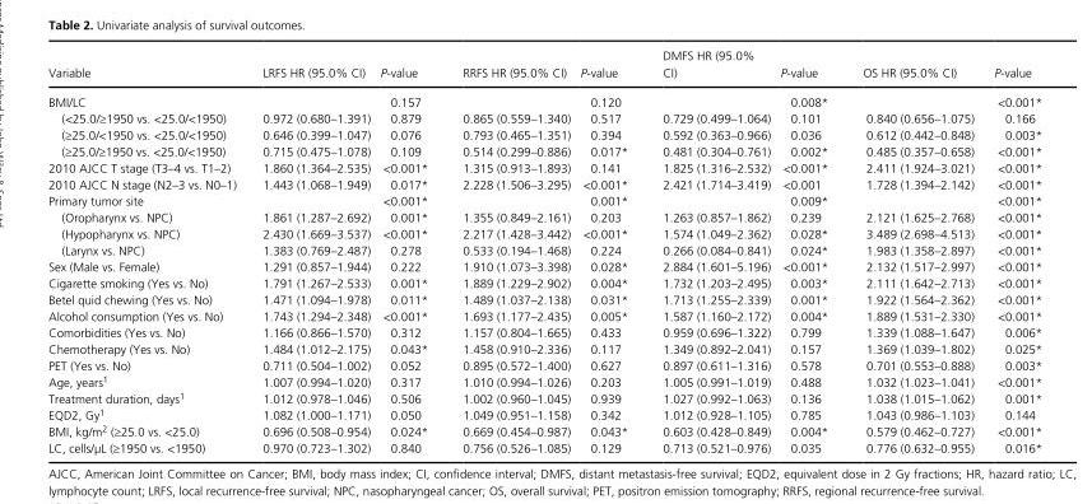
<table><thead><tr><td>Variable</td><td>LRFS HR (95.0% CI)</td><td>P- value</td><td>RRFS HR (95.0% CI)</td><td>P- value</td><td>DMFS HR (95.0% CI)</td><td>P- value</td><td>OS HR (95.0% CI)</td><td>P-value</td></tr></thead><tbody><tr><td>BMI/LC</td><td></td><td>0.157</td><td></td><td>0.120</td><td></td><td>0.008*</td><td></td><td>&lt;0.001*</td></tr><tr><td>(&lt;25.0/≥1950 vs. &lt;25.0/&lt;1950)</td><td>0.972 (0.680–1.391)</td><td>0.879</td><td>0.865 (0.559–1.340)</td><td>0.517</td><td>0.729 (0.499–1.064)</td><td>0.101</td><td>0.840 (0.656–1.075)</td><td>0.166</td></tr><tr><td>(≥25.0/&lt;1950 vs. &lt;25.0/&lt;1950)</td><td>0.646 (0.399–1.047)</td><td>0.076</td><td>0.793 (0.465–1.351)</td><td>0.394</td><td>0.592 (0.363–0.966)</td><td>0.036</td><td>0.612 (0.442–0.848)</td><td>0.003*</td></tr><tr><td>(≥25.0/≥1950 vs. &lt;25.0/&lt;1950)</td><td>0.715 (0.475–1.078)</td><td>0.109</td><td>0.514 (0.299–0.886)</td><td>0.017*</td><td>0.481 (0.304–0.761)</td><td>0.002*</td><td>0.485 (0.357–0.658)</td><td>&lt;0.001*</td></tr><tr><td>2010 AJCC T stage (T3–4 vs. T1–2)</td><td>1.860 (1.364–2.535)</td><td>&lt;0.001*</td><td>1.315 (0.913–1.893)</td><td>0.141</td><td>1.825 (1.316–2.532)</td><td>&lt;0.001*</td><td>2.411 (1.924–3.021)</td><td>&lt;0.001*</td></tr><tr><td>2010 AJCC N stage (N2–3 vs. N0–1)</td><td>1.443 (1.068–1.949)</td><td>0.017*</td><td>2.228 (1.506–3.295)</td><td>&lt;0.001*</td><td>2.421 (1.714–3.419)</td><td>&lt;0.001</td><td>1.728 (1.394–2.142)</td><td>&lt;0.001*</td></tr><tr><td>Primary tumor site</td><td></td><td>&lt;0.001*</td><td></td><td>0.001*</td><td></td><td>0.009*</td><td></td><td>&lt;0.001*</td></tr><tr><td>(Oropharynx vs. NPC)</td><td>1.861 (1.287–2.692)</td><td>0.001*</td><td>1.355 (0.849–2.161)</td><td>0.203</td><td>1.263 (0.857–1.862)</td><td>0.239</td><td>2.121 (1.625–2.768)</td><td>&lt;0.001*</td></tr><tr><td>(Hypopharynx vs. NPC)</td><td>2.430 (1.669–3.537)</td><td>&lt;0.001*</td><td>2.217 (1.428–3.442)</td><td>&lt;0.001*</td><td>1.574 (1.049–2.362)</td><td>0.028*</td><td>3.489 (2.698–4.513)</td><td>&lt;0.001*</td></tr><tr><td>(Larynx vs. NPC)</td><td>1.383 (0.769–2.487)</td><td>0.278</td><td>0.533 (0.194–1.468)</td><td>0.224</td><td>0.266 (0.084–0.841)</td><td>0.024*</td><td>1.983 (1.358–2.897)</td><td>&lt;0.001*</td></tr><tr><td>Sex (Male vs. Female)</td><td>1.291 (0.857–1.944)</td><td>0.222</td><td>1.910 (1.073–3.398)</td><td>0.028*</td><td>2.884 (1.601–5.196)</td><td>&lt;0.001*</td><td>2.132 (1.517–2.997)</td><td>&lt;0.001*</td></tr><tr><td>Cigarette smoking (Yes vs. No)</td><td>1.791 (1.267–2.533)</td><td>0.001*</td><td>1.889 (1.229–2.902)</td><td>0.004*</td><td>1.732 (1.203–2.495)</td><td>0.003*</td><td>2.111 (1.642–2.713)</td><td>&lt;0.001*</td></tr><tr><td>Betel quid chewing (Yes vs. No)</td><td>1.471 (1.094–1.978)</td><td>0.011*</td><td>1.489 (1.037–2.138)</td><td>0.031*</td><td>1.713 (1.255–2.339)</td><td>0.001*</td><td>1.922 (1.564–2.362)</td><td>&lt;0.001*</td></tr><tr><td>Alcohol consumption (Yes vs. No)</td><td>1.743 (1.294–2.348)</td><td>&lt;0.001*</td><td>1.693 (1.177–2.435)</td><td>0.005*</td><td>1.587 (1.160–2.172)</td><td>0.004*</td><td>1.889 (1.531–2.330)</td><td>&lt;0.001*</td></tr><tr><td>Comorbidities (Yes vs. No)</td><td>1.166 (0.866–1.570)</td><td>0.312</td><td>1.157 (0.804–1.665)</td><td>0.433</td><td>0.959 (0.696–1.322)</td><td>0.799</td><td>1.339 (1.088–1.647)</td><td>0.006*</td></tr><tr><td>Chemotherapy (Yes vs. No)</td><td>1.484 (1.012–2.175)</td><td>0.043*</td><td>1.458 (0.910–2.336)</td><td>0.117</td><td>1.349 (0.892–2.041)</td><td>0.157</td><td>1.369 (1.039–1.802)</td><td>0.025*</td></tr><tr><td>PET (Yes vs. No)</td><td>0.711 (0.504–1.002)</td><td>0.052</td><td>0.895 (0.572–1.400)</td><td>0.627</td><td>0.897 (0.611–1.316)</td><td>0.578</td><td>0.701 (0.553–0.888)</td><td>0.003*</td></tr><tr><td>Age, years1</td><td>1.007 (0.994–1.020)</td><td>0.317</td><td>1.010 (0.994–1.026)</td><td>0.203</td><td>1.005 (0.991–1.019)</td><td>0.488</td><td>1.032 (1.023–1.041)</td><td>&lt;0.001*</td></tr><tr><td>Treatment duration, days1</td><td>1.012 (0.978–1.046)</td><td>0.506</td><td>1.002 (0.960–1.045)</td><td>0.939</td><td>1.027 (0.992–1.063)</td><td>0.136</td><td>1.038 (1.015–1.062)</td><td>0.001*</td></tr><tr><td>EQD2, Gy1</td><td>1.082 (1.000–1.171)</td><td>0.050</td><td>1.049 (0.951–1.158)</td><td>0.342</td><td>1.012 (0.928–1.105)</td><td>0.785</td><td>1.043 (0.986–1.103)</td><td>0.144</td></tr><tr><td>BMI, kg/m<sup>2</sup> (≥25.0 vs. &lt;25.0)</td><td>0.696 (0.508–0.954)</td><td>0.024*</td><td>0.669 (0.454–0.987)</td><td>0.043*</td><td>0.603 (0.428–0.849)</td><td>0.004*</td><td>0.579 (0.462–0.727)</td><td>&lt;0.001*</td></tr><tr><td>LC, cells/μL (≥1950 vs. &lt;1950)</td><td>0.970 (0.723–1.302)</td><td>0.840</td><td>0.756 (0.526–1.085)</td><td>0.129</td><td>0.713 (0.521–0.976)</td><td>0.035</td><td>0.776 (0.632–0.955)</td><td>0.016*</td></tr></tbody></table>